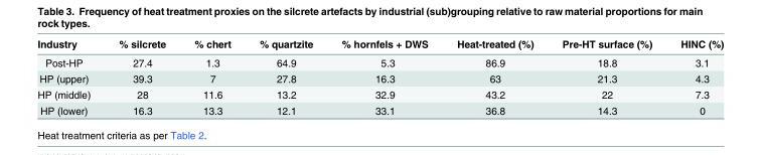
<table><thead><tr><td>Industry</td><td>% silcrete</td><td>% chert</td><td>% quartzite</td><td>% hornfels + DWS</td><td>Heat-treated (%)</td><td>Pre-HT surface (%)</td><td>HINC (%)</td></tr></thead><tbody><tr><td>Post-HP</td><td>27.4</td><td>1.3</td><td>64.9</td><td>5.3</td><td>86.9</td><td>18.8</td><td>3.1</td></tr><tr><td>HP (upper)</td><td>39.3</td><td>7</td><td>27.8</td><td>16.3</td><td>63</td><td>21.3</td><td>4.3</td></tr><tr><td>HP (middle)</td><td>28</td><td>11.6</td><td>13.2</td><td>32.9</td><td>43.2</td><td>22</td><td>7.3</td></tr><tr><td>HP (lower)</td><td>16.3</td><td>13.3</td><td>12.1</td><td>33.1</td><td>36.8</td><td>14.3</td><td>0</td></tr></tbody></table>